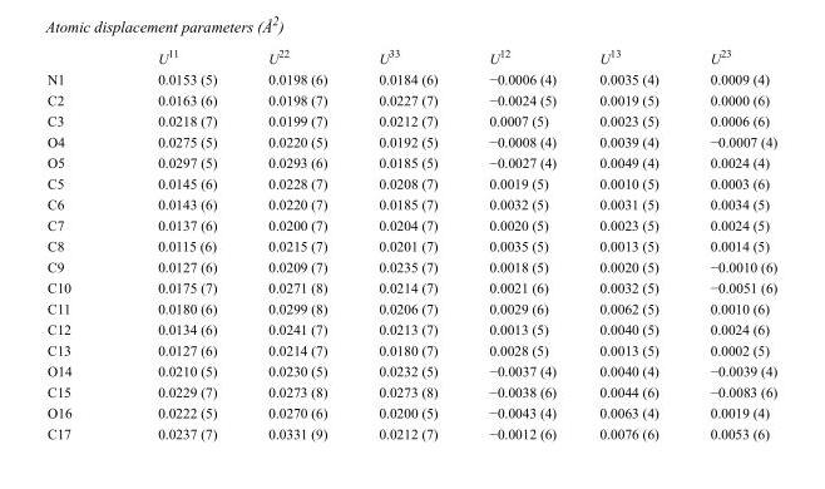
<table><thead><tr><td></td><td>U<sup>11</sup></td><td>U<sup>22</sup></td><td>U<sup>33</sup></td><td>U<sup>12</sup></td><td>U<sup>13</sup></td><td>U<sup>23</sup></td></tr></thead><tbody><tr><td>N1</td><td>0.0153 (5)</td><td>0.0198 (6)</td><td>0.0184 (6)</td><td>−0.0006 (4)</td><td>0.0035 (4)</td><td>0.0009 (4)</td></tr><tr><td>C2</td><td>0.0163 (6)</td><td>0.0198 (7)</td><td>0.0227 (7)</td><td>−0.0024 (5)</td><td>0.0019 (5)</td><td>0.0000 (6)</td></tr><tr><td>C3</td><td>0.0218 (7)</td><td>0.0199 (7)</td><td>0.0212 (7)</td><td>0.0007 (5)</td><td>0.0023 (5)</td><td>0.0006 (6)</td></tr><tr><td>O4</td><td>0.0275 (5)</td><td>0.0220 (5)</td><td>0.0192 (5)</td><td>−0.0008 (4)</td><td>0.0039 (4)</td><td>−0.0007 (4)</td></tr><tr><td>O5</td><td>0.0297 (5)</td><td>0.0293 (6)</td><td>0.0185 (5)</td><td>−0.0027 (4)</td><td>0.0049 (4)</td><td>0.0024 (4)</td></tr><tr><td>C5</td><td>0.0145 (6)</td><td>0.0228 (7)</td><td>0.0208 (7)</td><td>0.0019 (5)</td><td>0.0010 (5)</td><td>0.0003 (6)</td></tr><tr><td>C6</td><td>0.0143 (6)</td><td>0.0220 (7)</td><td>0.0185 (7)</td><td>0.0032 (5)</td><td>0.0031 (5)</td><td>0.0034 (5)</td></tr><tr><td>C7</td><td>0.0137 (6)</td><td>0.0200 (7)</td><td>0.0204 (7)</td><td>0.0020 (5)</td><td>0.0023 (5)</td><td>0.0024 (5)</td></tr><tr><td>C8</td><td>0.0115 (6)</td><td>0.0215 (7)</td><td>0.0201 (7)</td><td>0.0035 (5)</td><td>0.0013 (5)</td><td>0.0014 (5)</td></tr><tr><td>C9</td><td>0.0127 (6)</td><td>0.0209 (7)</td><td>0.0235 (7)</td><td>0.0018 (5)</td><td>0.0020 (5)</td><td>−0.0010 (6)</td></tr><tr><td>C10</td><td>0.0175 (7)</td><td>0.0271 (8)</td><td>0.0214 (7)</td><td>0.0021 (6)</td><td>0.0032 (5)</td><td>−0.0051 (6)</td></tr><tr><td>C11</td><td>0.0180 (6)</td><td>0.0299 (8)</td><td>0.0206 (7)</td><td>0.0029 (6)</td><td>0.0062 (5)</td><td>0.0010 (6)</td></tr><tr><td>C12</td><td>0.0134 (6)</td><td>0.0241 (7)</td><td>0.0213 (7)</td><td>0.0013 (5)</td><td>0.0040 (5)</td><td>0.0024 (6)</td></tr><tr><td>C13</td><td>0.0127 (6)</td><td>0.0214 (7)</td><td>0.0180 (7)</td><td>0.0028 (5)</td><td>0.0013 (5)</td><td>0.0002 (5)</td></tr><tr><td>O14</td><td>0.0210 (5)</td><td>0.0230 (5)</td><td>0.0232 (5)</td><td>−0.0037 (4)</td><td>0.0040 (4)</td><td>−0.0039 (4)</td></tr><tr><td>C15</td><td>0.0229 (7)</td><td>0.0273 (8)</td><td>0.0273 (8)</td><td>−0.0038 (6)</td><td>0.0044 (6)</td><td>−0.0083 (6)</td></tr><tr><td>O16</td><td>0.0222 (5)</td><td>0.0270 (6)</td><td>0.0200 (5)</td><td>−0.0043 (4)</td><td>0.0063 (4)</td><td>0.0019 (4)</td></tr><tr><td>C17</td><td>0.0237 (7)</td><td>0.0331 (9)</td><td>0.0212 (7)</td><td>−0.0012 (6)</td><td>0.0076 (6)</td><td>0.0053 (6)</td></tr></tbody></table>